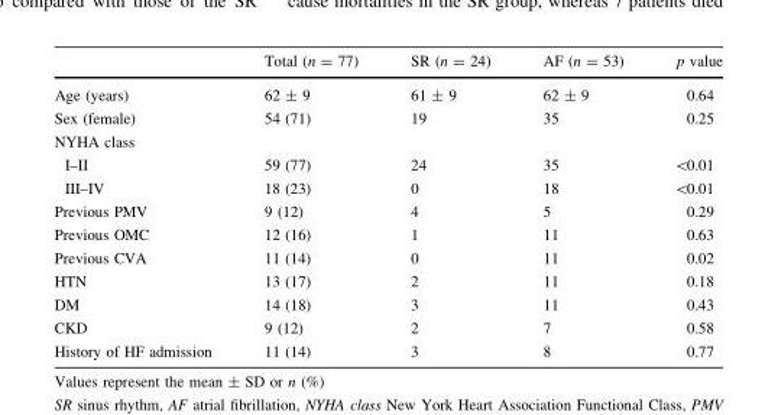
<table><thead><tr><td></td><td>Total (n = 77)</td><td>SR (n = 24)</td><td>AF (n = 53)</td><td>p value</td></tr></thead><tbody><tr><td>Age (years)</td><td>62 ± 9</td><td>61 ± 9</td><td>62 ± 9</td><td>0.64</td></tr><tr><td>Sex (female)</td><td>54 (71)</td><td>19</td><td>35</td><td>0.25</td></tr><tr><td colspan="5">NYHA class</td></tr><tr><td>I–II</td><td>59 (77)</td><td>24</td><td>35</td><td>&lt;0.01</td></tr><tr><td>III–IV</td><td>18 (23)</td><td>0</td><td>18</td><td>&lt;0.01</td></tr><tr><td>Previous PMV</td><td>9 (12)</td><td>4</td><td>5</td><td>0.29</td></tr><tr><td>Previous OMC</td><td>12 (16)</td><td>1</td><td>11</td><td>0.63</td></tr><tr><td>Previous CVA</td><td>11 (14)</td><td>0</td><td>11</td><td>0.02</td></tr><tr><td>HTN</td><td>13 (17)</td><td>2</td><td>11</td><td>0.18</td></tr><tr><td>DM</td><td>14 (18)</td><td>3</td><td>11</td><td>0.43</td></tr><tr><td>CKD</td><td>9 (12)</td><td>2</td><td>7</td><td>0.58</td></tr><tr><td>History of HF admission</td><td>11 (14)</td><td>3</td><td>8</td><td>0.77</td></tr></tbody></table>